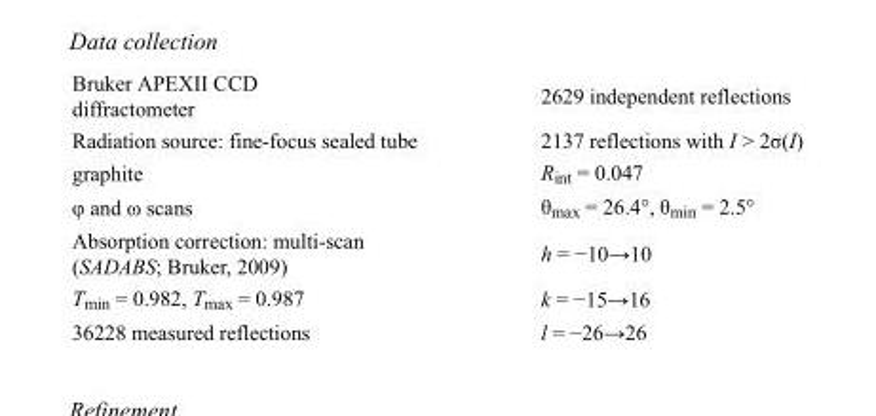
<table><tbody><tr><td>Bruker APEXII CCD diffractometer</td><td>2629 independent reflections</td></tr><tr><td>Radiation source: fine-focus sealed tube</td><td>2137 reflections with I &gt; 2σ(I)</td></tr><tr><td>graphite</td><td>R<sub>int</sub> = 0.047</td></tr><tr><td>φ and ω scans</td><td>θ<sub>max</sub> = 26.4°, θ<sub>min</sub> = 2.5°</td></tr><tr><td>Absorption correction: multi-scan (SADABS; Bruker, 2009)</td><td>h = −10→10</td></tr><tr><td>T<sub>min</sub> = 0.982, T<sub>max</sub> = 0.987</td><td>k = −15→16</td></tr><tr><td>36228 measured reflections</td><td>l = −26→26</td></tr></tbody></table>